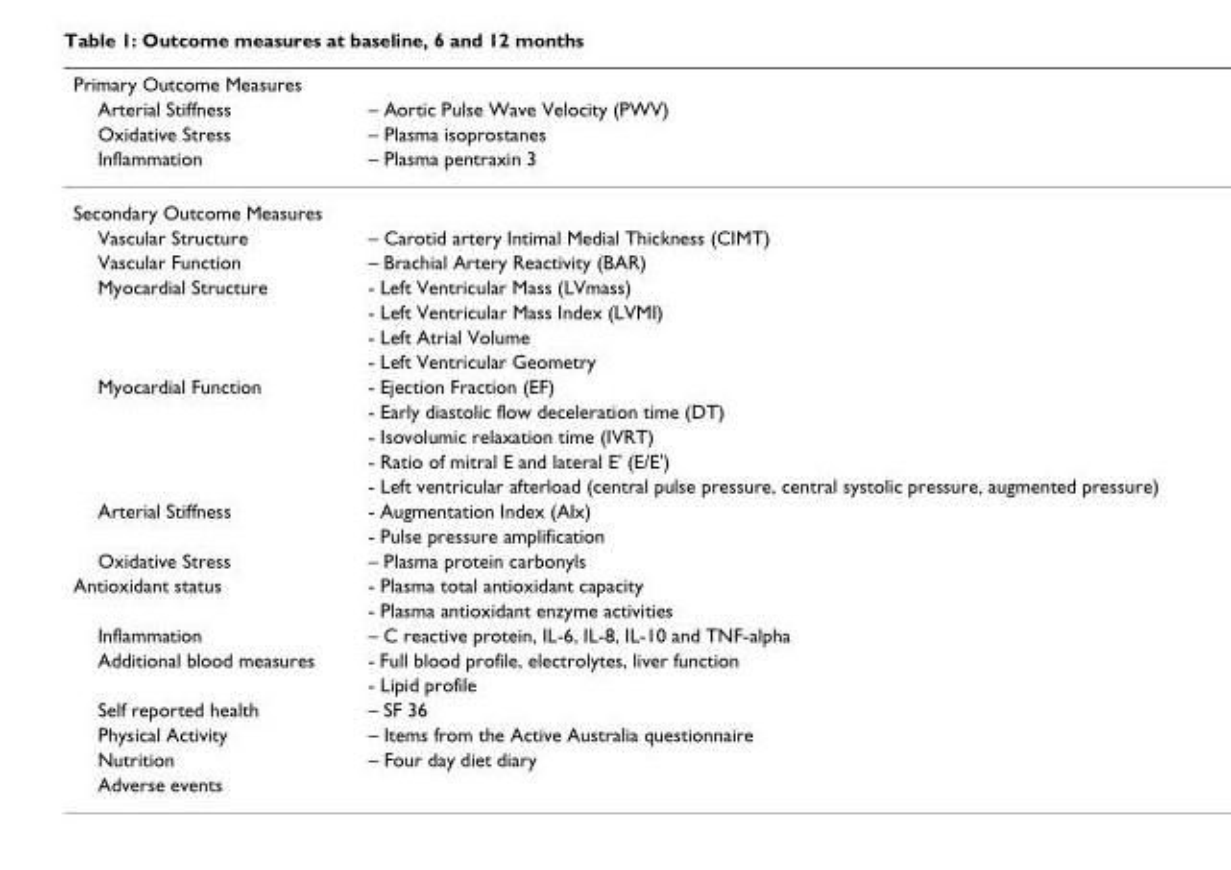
<table><thead><tr><td colspan="2">Primary Outcome Measures</td></tr><tr><td rowspan="3">Arterial Stiffness Oxidative Stress Inflammation</td><td rowspan="3">– Aortic Pulse Wave Velocity (PWV) – Plasma isoprostanes – Plasma pentraxin 3</td></tr><tr></tr><tr></tr></thead><tbody><tr><td colspan="2">Secondary Outcome Measures</td></tr><tr><td>Vascular Structure</td><td>– Carotid artery Intimal Medial Thickness (CIMT)</td></tr><tr><td>Vascular Function</td><td>– Brachial Artery Reactivity (BAR)</td></tr><tr><td rowspan="4">Myocardial Structure</td><td>- Left Ventricular Mass (LVmass)</td></tr><tr><td>- Left Ventricular Mass Index (LVMI)</td></tr><tr><td>- Left Atrial Volume</td></tr><tr><td>- Left Ventricular Geometry</td></tr><tr><td rowspan="5">Myocardial Function</td><td>- Ejection Fraction (EF)</td></tr><tr><td>- Early diastolic flow deceleration time (DT)</td></tr><tr><td>- Isovolumic relaxation time (IVRT)</td></tr><tr><td>- Ratio of mitral E and lateral E&#x27; (E/E&#x27;)</td></tr><tr><td>- Left ventricular afterload (central pulse pressure, central systolic pressure, augmented pressure)</td></tr><tr><td rowspan="2">Arterial Stiffness</td><td>- Augmentation Index (AIx)</td></tr><tr><td>- Pulse pressure amplification</td></tr><tr><td>Oxidative Stress</td><td>– Plasma protein carbonyls</td></tr><tr><td rowspan="2">Antioxidant status</td><td>- Plasma total antioxidant capacity</td></tr><tr><td>- Plasma antioxidant enzyme activities</td></tr><tr><td>Inflammation</td><td>– C reactive protein, IL-6, IL-8, IL-10 and TNF-alpha</td></tr><tr><td rowspan="2">Additional blood measures</td><td>- Full blood profile, electrolytes, liver function</td></tr><tr><td>- Lipid profile</td></tr><tr><td>Self reported health</td><td>– SF 36</td></tr><tr><td>Physical Activity</td><td>– Items from the Active Australia questionnaire</td></tr><tr><td>Nutrition</td><td>– Four day diet diary</td></tr><tr><td>Adverse events</td><td></td></tr></tbody></table>